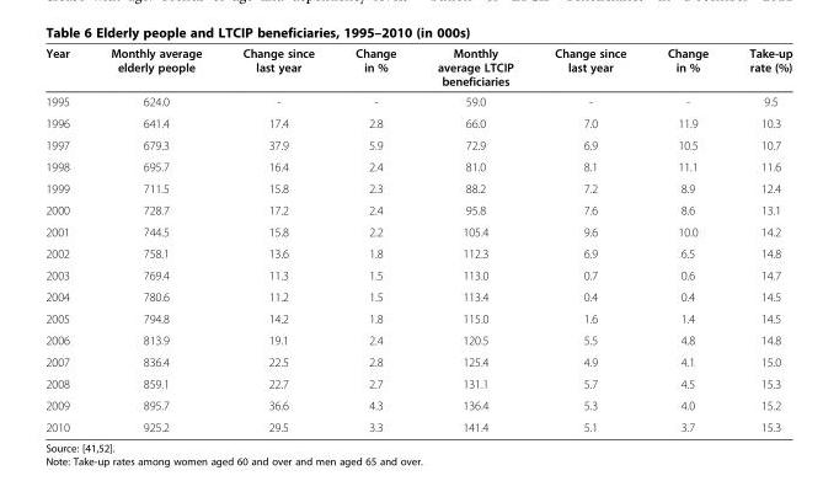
<table><thead><tr><td>Year</td><td>Monthly average elderly people</td><td>Change since last year</td><td>Change in %</td><td>Monthly average LTCIP beneficiaries</td><td>Change since last year</td><td>Change in %</td><td>Take-up rate (%)</td></tr></thead><tbody><tr><td>1995</td><td>624.0</td><td>-</td><td>-</td><td>59.0</td><td>-</td><td>-</td><td>9.5</td></tr><tr><td>1996</td><td>641.4</td><td>17.4</td><td>2.8</td><td>66.0</td><td>7.0</td><td>11.9</td><td>10.3</td></tr><tr><td>1997</td><td>679.3</td><td>37.9</td><td>5.9</td><td>72.9</td><td>6.9</td><td>10.5</td><td>10.7</td></tr><tr><td>1998</td><td>695.7</td><td>16.4</td><td>2.4</td><td>81.0</td><td>8.1</td><td>11.1</td><td>11.6</td></tr><tr><td>1999</td><td>711.5</td><td>15.8</td><td>2.3</td><td>88.2</td><td>7.2</td><td>8.9</td><td>12.4</td></tr><tr><td>2000</td><td>728.7</td><td>17.2</td><td>2.4</td><td>95.8</td><td>7.6</td><td>8.6</td><td>13.1</td></tr><tr><td>2001</td><td>744.5</td><td>15.8</td><td>2.2</td><td>105.4</td><td>9.6</td><td>10.0</td><td>14.2</td></tr><tr><td>2002</td><td>758.1</td><td>13.6</td><td>1.8</td><td>112.3</td><td>6.9</td><td>6.5</td><td>14.8</td></tr><tr><td>2003</td><td>769.4</td><td>11.3</td><td>1.5</td><td>113.0</td><td>0.7</td><td>0.6</td><td>14.7</td></tr><tr><td>2004</td><td>780.6</td><td>11.2</td><td>1.5</td><td>113.4</td><td>0.4</td><td>0.4</td><td>14.5</td></tr><tr><td>2005</td><td>794.8</td><td>14.2</td><td>1.8</td><td>115.0</td><td>1.6</td><td>1.4</td><td>14.5</td></tr><tr><td>2006</td><td>813.9</td><td>19.1</td><td>2.4</td><td>120.5</td><td>5.5</td><td>4.8</td><td>14.8</td></tr><tr><td>2007</td><td>836.4</td><td>22.5</td><td>2.8</td><td>125.4</td><td>4.9</td><td>4.1</td><td>15.0</td></tr><tr><td>2008</td><td>859.1</td><td>22.7</td><td>2.7</td><td>131.1</td><td>5.7</td><td>4.5</td><td>15.3</td></tr><tr><td>2009</td><td>895.7</td><td>36.6</td><td>4.3</td><td>136.4</td><td>5.3</td><td>4.0</td><td>15.2</td></tr><tr><td>2010</td><td>925.2</td><td>29.5</td><td>3.3</td><td>141.4</td><td>5.1</td><td>3.7</td><td>15.3</td></tr></tbody></table>